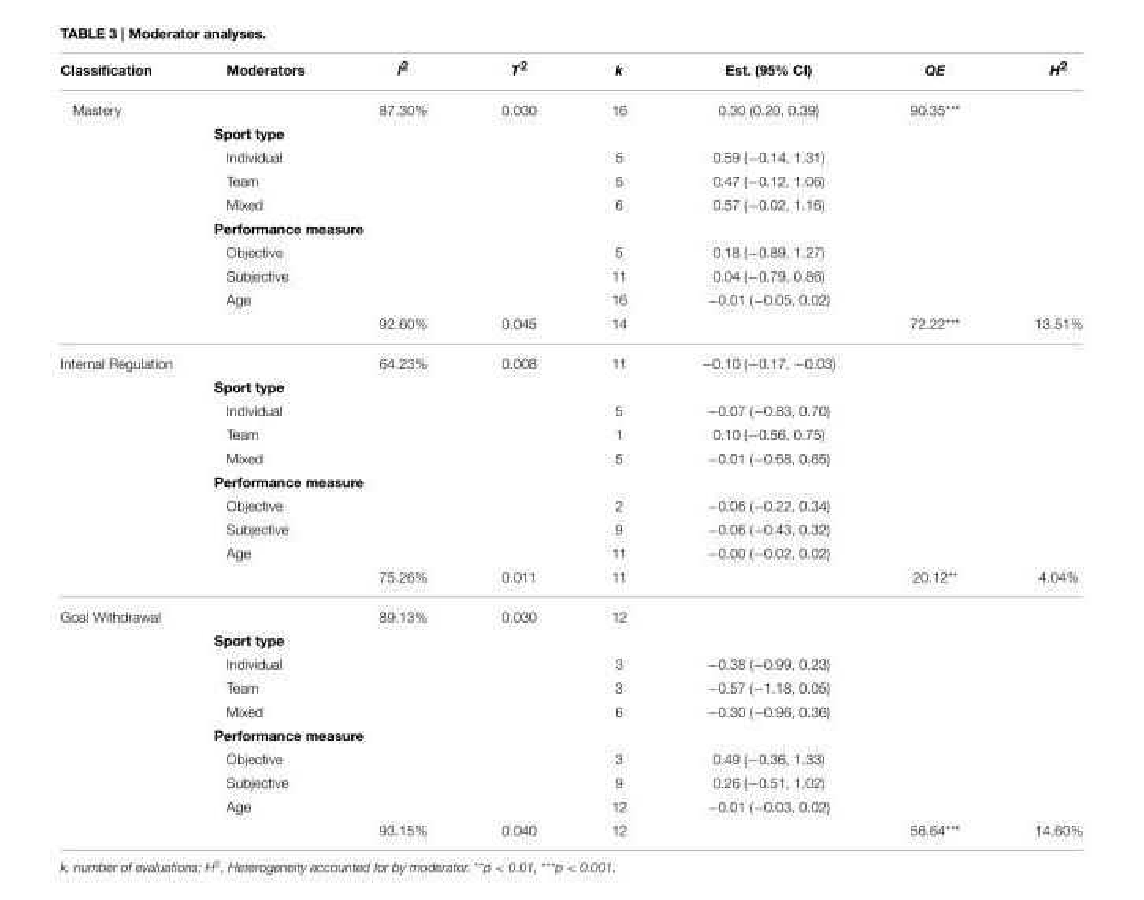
<table><thead><tr><td>Classification</td><td>Moderators</td><td>I<sup>2</sup></td><td>T<sup>2</sup></td><td>k</td><td>Est. (95% CI)</td><td>QE</td><td>H<sup>2</sup></td></tr></thead><tbody><tr><td colspan="2">Mastery</td><td>87.30%</td><td>0.030</td><td>16</td><td>0.30 (0.20, 0.39)</td><td>90.35***</td><td></td></tr><tr><td></td><td colspan="7">Sport type</td></tr><tr><td></td><td>Individual</td><td></td><td></td><td>5</td><td>0.59 (−0.14, 1.31)</td><td></td><td></td></tr><tr><td></td><td>Team</td><td></td><td></td><td>5</td><td>0.47 (−0.12, 1.06)</td><td></td><td></td></tr><tr><td></td><td>Mixed</td><td></td><td></td><td>6</td><td>0.57 (−0.02, 1.16)</td><td></td><td></td></tr><tr><td></td><td colspan="7">Performance measure</td></tr><tr><td></td><td>Objective</td><td></td><td></td><td>5</td><td>0.18 (−0.89, 1.27)</td><td></td><td></td></tr><tr><td></td><td>Subjective</td><td></td><td></td><td>11</td><td>0.04 (−0.79, 0.86)</td><td></td><td></td></tr><tr><td></td><td>Age</td><td></td><td></td><td>16</td><td>−0.01 (−0.05, 0.02)</td><td></td><td></td></tr><tr><td></td><td></td><td>92.60%</td><td>0.045</td><td>14</td><td></td><td>72.22***</td><td>13.51%</td></tr><tr><td colspan="2">Internal Regulation</td><td>64.23%</td><td>0.008</td><td>11</td><td>−0.10 (−0.17, −0.03)</td><td></td><td></td></tr><tr><td></td><td colspan="7">Sport type</td></tr><tr><td></td><td>Individual</td><td></td><td></td><td>5</td><td>−0.07 (−0.83, 0.70)</td><td></td><td></td></tr><tr><td></td><td>Team</td><td></td><td></td><td>1</td><td>0.10 (−0.56, 0.75)</td><td></td><td></td></tr><tr><td></td><td>Mixed</td><td></td><td></td><td>5</td><td>−0.01 (−0.68, 0.65)</td><td></td><td></td></tr><tr><td></td><td colspan="7">Performance measure</td></tr><tr><td></td><td>Objective</td><td></td><td></td><td>2</td><td>−0.06 (−0.22, 0.34)</td><td></td><td></td></tr><tr><td></td><td>Subjective</td><td></td><td></td><td>9</td><td>−0.06 (−0.43, 0.32)</td><td></td><td></td></tr><tr><td></td><td>Age</td><td></td><td></td><td>11</td><td>−0.00 (−0.02, 0.02)</td><td></td><td></td></tr><tr><td></td><td></td><td>75.26%</td><td>0.011</td><td>11</td><td></td><td>20.12**</td><td>4.04%</td></tr><tr><td colspan="2">Goal Withdrawal</td><td>89.13%</td><td>0.030</td><td>12</td><td></td><td></td><td></td></tr><tr><td></td><td colspan="7">Sport type</td></tr><tr><td></td><td>Individual</td><td></td><td></td><td>3</td><td>−0.38 (−0.99, 0.23)</td><td></td><td></td></tr><tr><td></td><td>Team</td><td></td><td></td><td>3</td><td>−0.57 (−1.18, 0.05)</td><td></td><td></td></tr><tr><td></td><td>Mixed</td><td></td><td></td><td>6</td><td>−0.30 (−0.96, 0.36)</td><td></td><td></td></tr><tr><td></td><td colspan="7">Performance measure</td></tr><tr><td></td><td>Objective</td><td></td><td></td><td>3</td><td>0.49 (−0.36, 1.33)</td><td></td><td></td></tr><tr><td></td><td>Subjective</td><td></td><td></td><td>9</td><td>0.26 (−0.51, 1.02)</td><td></td><td></td></tr><tr><td></td><td>Age</td><td></td><td></td><td>12</td><td>−0.01 (−0.03, 0.02)</td><td></td><td></td></tr><tr><td></td><td></td><td>93.15%</td><td>0.040</td><td>12</td><td></td><td>56.64***</td><td>14.60%</td></tr></tbody></table>